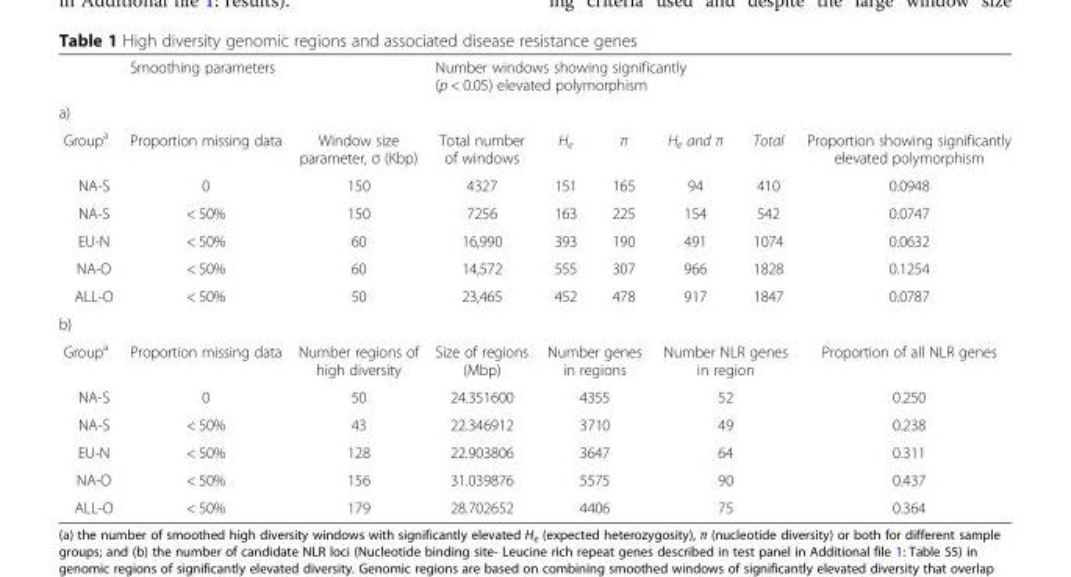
<table><thead><tr><td></td><td colspan="2">Smoothing parameters</td><td colspan="5">Number windows showing significantly (p &lt; 0.05) elevated polymorphism</td><td></td></tr><tr><td colspan="9">a)</td></tr><tr><td>Group<sup>a</sup></td><td>Proportion missing data</td><td>Window size parameter, σ (Kbp)</td><td>Total number of windows</td><td>H<sub>e</sub></td><td>π</td><td>H<sub>e</sub> and π</td><td>Total</td><td>Proportion showing significantly elevated polymorphism</td></tr></thead><tbody><tr><td>NA-S</td><td>0</td><td>150</td><td>4327</td><td>151</td><td>165</td><td>94</td><td>410</td><td>0.0948</td></tr><tr><td>NA-S</td><td>&lt; 50%</td><td>150</td><td>7256</td><td>163</td><td>225</td><td>154</td><td>542</td><td>0.0747</td></tr><tr><td>EU-N</td><td>&lt; 50%</td><td>60</td><td>16,990</td><td>393</td><td>190</td><td>491</td><td>1074</td><td>0.0632</td></tr><tr><td>NA-O</td><td>&lt; 50%</td><td>60</td><td>14,572</td><td>555</td><td>307</td><td>966</td><td>1828</td><td>0.1254</td></tr><tr><td>ALL-O</td><td>&lt; 50%</td><td>50</td><td>23,465</td><td>452</td><td>478</td><td>917</td><td>1847</td><td>0.0787</td></tr><tr><td colspan="9">b)</td></tr><tr><td>Group<sup>a</sup></td><td>Proportion missing data</td><td>Number regions of high diversity</td><td>Size of regions (Mbp)</td><td colspan="2">Number genes in regions</td><td colspan="2">Number NLR genes in region</td><td>Proportion of all NLR genes</td></tr><tr><td>NA-S</td><td>0</td><td>50</td><td>24.351600</td><td colspan="2">4355</td><td colspan="2">52</td><td>0.250</td></tr><tr><td>NA-S</td><td>&lt; 50%</td><td>43</td><td>22.346912</td><td colspan="2">3710</td><td colspan="2">49</td><td>0.238</td></tr><tr><td>EU-N</td><td>&lt; 50%</td><td>128</td><td>22.903806</td><td colspan="2">3647</td><td colspan="2">64</td><td>0.311</td></tr><tr><td>NA-O</td><td>&lt; 50%</td><td>156</td><td>31.039876</td><td colspan="2">5575</td><td colspan="2">90</td><td>0.437</td></tr><tr><td>ALL-O</td><td>&lt; 50%</td><td>179</td><td>28.702652</td><td colspan="2">4406</td><td colspan="2">75</td><td>0.364</td></tr></tbody></table>